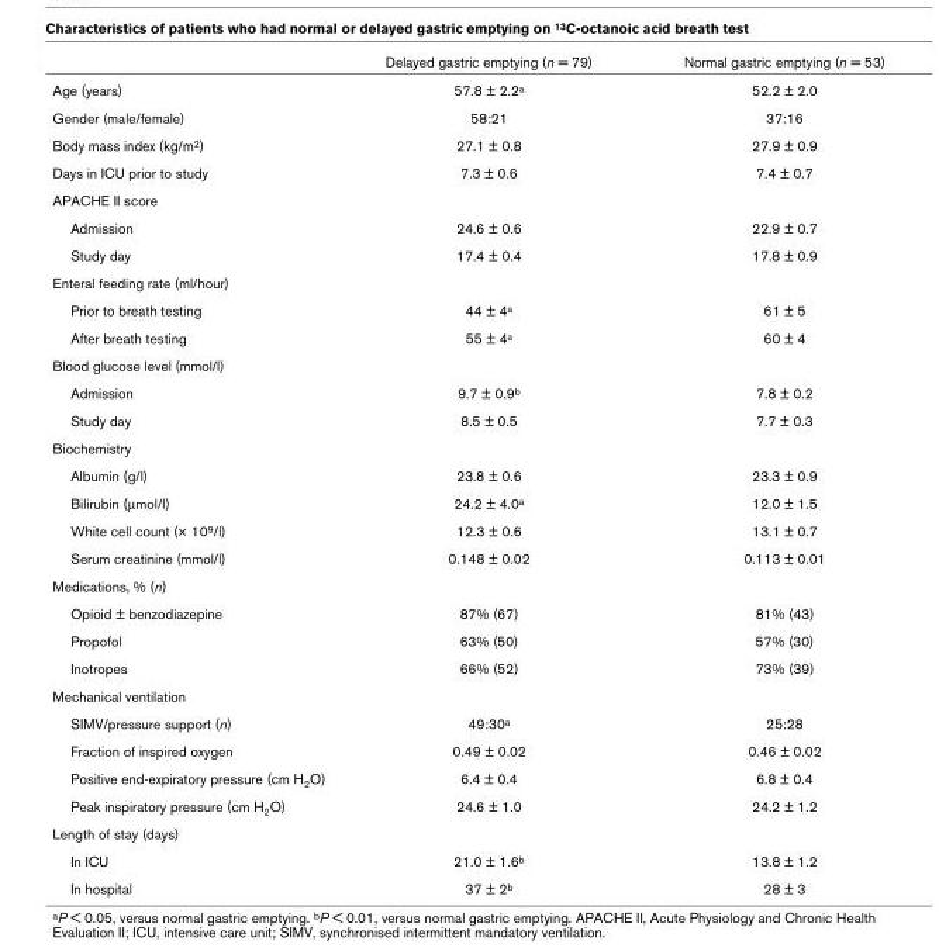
<table><thead><tr><td></td><td>Delayed gastric emptying (n = 79)</td><td>Normal gastric emptying (n = 53)</td></tr></thead><tbody><tr><td>Age (years)</td><td>57.8 ± 2.2<sup>a</sup></td><td>52.2 ± 2.0</td></tr><tr><td>Gender (male/female)</td><td>58:21</td><td>37:16</td></tr><tr><td>Body mass index (kg/m<sup>2</sup>)</td><td>27.1 ± 0.8</td><td>27.9 ± 0.9</td></tr><tr><td>Days in ICU prior to study</td><td>7.3 ± 0.6</td><td>7.4 ± 0.7</td></tr><tr><td colspan="3">APACHE II score</td></tr><tr><td>Admission</td><td>24.6 ± 0.6</td><td>22.9 ± 0.7</td></tr><tr><td>Study day</td><td>17.4 ± 0.4</td><td>17.8 ± 0.9</td></tr><tr><td colspan="3">Enteral feeding rate (ml/hour)</td></tr><tr><td>Prior to breath testing</td><td>44 ± 4<sup>a</sup></td><td>61 ± 5</td></tr><tr><td>After breath testing</td><td>55 ± 4<sup>a</sup></td><td>60 ± 4</td></tr><tr><td colspan="3">Blood glucose level (mmol/l)</td></tr><tr><td>Admission</td><td>9.7 ± 0.9<sup>b</sup></td><td>7.8 ± 0.2</td></tr><tr><td>Study day</td><td>8.5 ± 0.5</td><td>7.7 ± 0.3</td></tr><tr><td colspan="3">Biochemistry</td></tr><tr><td>Albumin (g/l)</td><td>23.8 ± 0.6</td><td>23.3 ± 0.9</td></tr><tr><td>Bilirubin (μmol/l)</td><td>24.2 ± 4.0<sup>a</sup></td><td>12.0 ± 1.5</td></tr><tr><td>White cell count (× 10<sup>9</sup>/l)</td><td>12.3 ± 0.6</td><td>13.1 ± 0.7</td></tr><tr><td>Serum creatinine (mmol/l)</td><td>0.148 ± 0.02</td><td>0.113 ± 0.01</td></tr><tr><td colspan="3">Medications, % (n)</td></tr><tr><td>Opioid ± benzodiazepine</td><td>87% (67)</td><td>81% (43)</td></tr><tr><td>Propofol</td><td>63% (50)</td><td>57% (30)</td></tr><tr><td>Inotropes</td><td>66% (52)</td><td>73% (39)</td></tr><tr><td colspan="3">Mechanical ventilation</td></tr><tr><td>SIMV/pressure support (n)</td><td>49:30<sup>a</sup></td><td>25:28</td></tr><tr><td>Fraction of inspired oxygen</td><td>0.49 ± 0.02</td><td>0.46 ± 0.02</td></tr><tr><td>Positive end-expiratory pressure (cm H<sub>2</sub>O)</td><td>6.4 ± 0.4</td><td>6.8 ± 0.4</td></tr><tr><td>Peak inspiratory pressure (cm H<sub>2</sub>O)</td><td>24.6 ± 1.0</td><td>24.2 ± 1.2</td></tr><tr><td colspan="3">Length of stay (days)</td></tr><tr><td>In ICU</td><td>21.0 ± 1.6<sup>b</sup></td><td>13.8 ± 1.2</td></tr><tr><td>In hospital</td><td>37 ± 2<sup>b</sup></td><td>28 ± 3</td></tr></tbody></table>